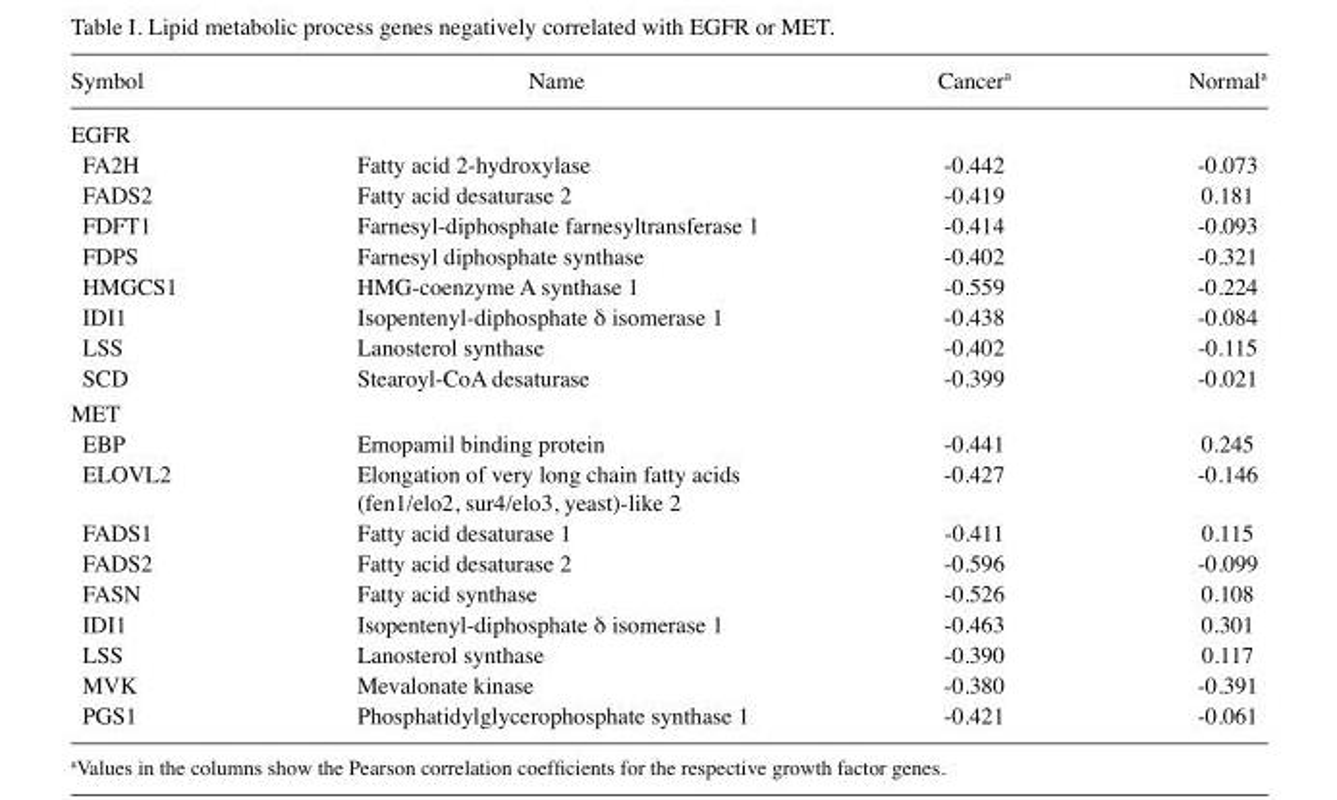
<table><thead><tr><td>Symbol</td><td>Name</td><td>Cancer<sup>a</sup></td><td>Normal<sup>a</sup></td></tr></thead><tbody><tr><td colspan="4">EGFR</td></tr><tr><td>FA2H</td><td>Fatty acid 2-hydroxylase</td><td>-0.442</td><td>-0.073</td></tr><tr><td>FADS2</td><td>Fatty acid desaturase 2</td><td>-0.419</td><td>0.181</td></tr><tr><td>FDFT1</td><td>Farnesyl-diphosphate farnesyltransferase 1</td><td>-0.414</td><td>-0.093</td></tr><tr><td>FDPS</td><td>Farnesyl diphosphate synthase</td><td>-0.402</td><td>-0.321</td></tr><tr><td>HMGCS1</td><td>HMG-coenzyme A synthase 1</td><td>-0.559</td><td>-0.224</td></tr><tr><td>IDI1</td><td>Isopentenyl-diphosphate δ isomerase 1</td><td>-0.438</td><td>-0.084</td></tr><tr><td>LSS</td><td>Lanosterol synthase</td><td>-0.402</td><td>-0.115</td></tr><tr><td>SCD</td><td>Stearoyl-CoA desaturase</td><td>-0.399</td><td>-0.021</td></tr><tr><td colspan="4">MET</td></tr><tr><td>EBP</td><td>Emopamil binding protein</td><td>-0.441</td><td>0.245</td></tr><tr><td>ELOVL2</td><td>Elongation of very long chain fatty acids (fen1/elo2, sur4/elo3, yeast)-like 2</td><td>-0.427</td><td>-0.146</td></tr><tr><td>FADS1</td><td>Fatty acid desaturase 1</td><td>-0.411</td><td>0.115</td></tr><tr><td>FADS2</td><td>Fatty acid desaturase 2</td><td>-0.596</td><td>-0.099</td></tr><tr><td>FASN</td><td>Fatty acid synthase</td><td>-0.526</td><td>0.108</td></tr><tr><td>IDI1</td><td>Isopentenyl-diphosphate δ isomerase 1</td><td>-0.463</td><td>0.301</td></tr><tr><td>LSS</td><td>Lanosterol synthase</td><td>-0.390</td><td>0.117</td></tr><tr><td>MVK</td><td>Mevalonate kinase</td><td>-0.380</td><td>-0.391</td></tr><tr><td>PGS1</td><td>Phosphatidylglycerophosphate synthase 1</td><td>-0.421</td><td>-0.061</td></tr></tbody></table>